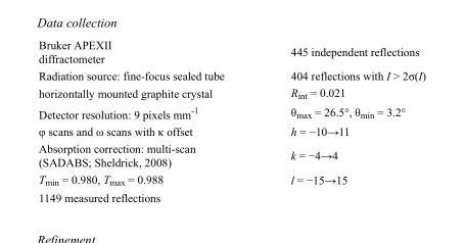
<table><tbody><tr><td>Bruker APEXII diffractometer</td><td>445 independent reflections</td></tr><tr><td>Radiation source: fine-focus sealed tube</td><td>404 reflections with I &gt; 2σ(I)</td></tr><tr><td>horizontally mounted graphite crystal</td><td>R<sub>int</sub> = 0.021</td></tr><tr><td>Detector resolution: 9 pixels mm<sup>-1</sup></td><td>θ<sub>max</sub> = 26.5°, θ<sub>min</sub> = 3.2°</td></tr><tr><td>φ scans and ω scans with κ offset</td><td>h = −10→11</td></tr><tr><td>Absorption correction: multi-scan (SADABS; Sheldrick, 2008)</td><td>k = −4→4</td></tr><tr><td>T<sub>min</sub> = 0.980, T<sub>max</sub> = 0.988</td><td>l = −15→15</td></tr><tr><td>1149 measured reflections</td><td></td></tr></tbody></table>